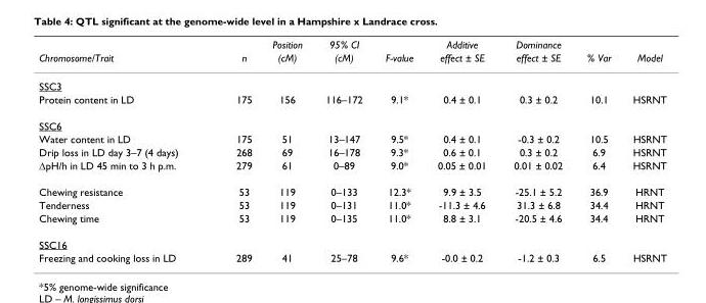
<table><thead><tr><td rowspan="2">Chromosome/Trait</td><td rowspan="2">n</td><td rowspan="2">Position (cM)</td><td rowspan="2">95% CI (cM)</td><td rowspan="2">F-value</td><td rowspan="2">Additive effect ± SE</td><td rowspan="2">Dominance effect ± SE</td><td rowspan="2">% Var</td><td rowspan="2">Model</td></tr><tr></tr></thead><tbody><tr><td colspan="9">SSC3</td></tr><tr><td>Protein content in LD</td><td>175</td><td>156</td><td>116–172</td><td>9.1*</td><td>0.4 ± 0.1</td><td>0.3 ± 0.2</td><td>10.1</td><td>HSRNT</td></tr><tr><td colspan="9">SSC6</td></tr><tr><td>Water content in LD</td><td>175</td><td>51</td><td>13–147</td><td>9.5*</td><td>0.4 ± 0.1</td><td>-0.3 ± 0.2</td><td>10.5</td><td>HSRNT</td></tr><tr><td>Drip loss in LD day 3–7 (4 days)</td><td>268</td><td>69</td><td>16–178</td><td>9.3*</td><td>0.6 ± 0.1</td><td>0.3 ± 0.2</td><td>6.9</td><td>HSRNT</td></tr><tr><td>∆pH/h in LD 45 min to 3 h p.m.</td><td>279</td><td>61</td><td>0–89</td><td>9.0*</td><td>0.05 ± 0.01</td><td>0.01 ± 0.02</td><td>6.4</td><td>HSRNT</td></tr><tr><td>Chewing resistance</td><td>53</td><td>119</td><td>0–133</td><td>12.3*</td><td>9.9 ± 3.5</td><td>-25.1 ± 5.2</td><td>36.9</td><td>HRNT</td></tr><tr><td>Tenderness</td><td>53</td><td>119</td><td>0–131</td><td>11.0*</td><td>-11.3 ± 4.6</td><td>31.3 ± 6.8</td><td>34.4</td><td>HRNT</td></tr><tr><td>Chewing time</td><td>53</td><td>119</td><td>0–135</td><td>11.0*</td><td>8.8 ± 3.1</td><td>-20.5 ± 4.6</td><td>34.4</td><td>HRNT</td></tr><tr><td colspan="9">SSC16</td></tr><tr><td>Freezing and cooking loss in LD</td><td>289</td><td>41</td><td>25–78</td><td>9.6*</td><td>-0.0 ± 0.2</td><td>-1.2 ± 0.3</td><td>6.5</td><td>HSRNT</td></tr></tbody></table>